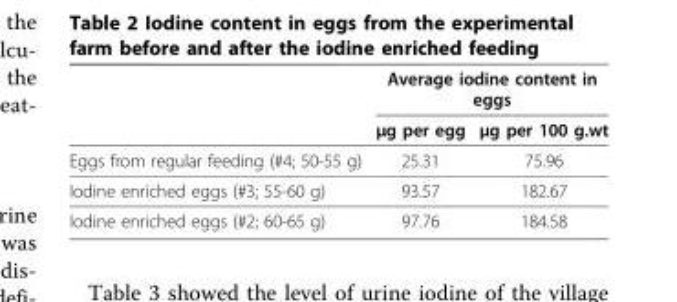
<table><thead><tr><td rowspan="2"></td><td colspan="2">Average iodine content in eggs</td></tr><tr><td>μg per egg</td><td>μg per 100 g.wt</td></tr></thead><tbody><tr><td>Eggs from regular feeding (#4; 50-55 g)</td><td>25.31</td><td>75.96</td></tr><tr><td>Iodine enriched eggs (#3; 55-60 g)</td><td>93.57</td><td>182.67</td></tr><tr><td>Iodine enriched eggs (#2; 60-65 g)</td><td>97.76</td><td>184.58</td></tr></tbody></table>